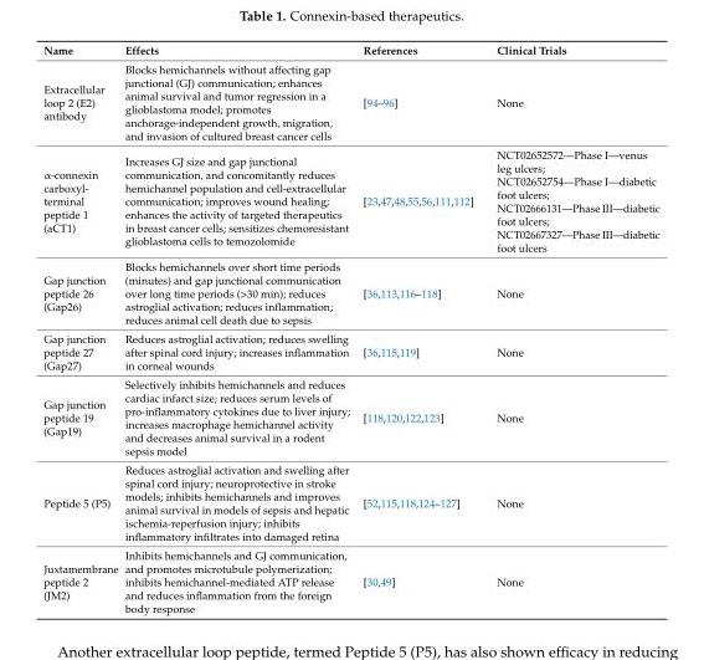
<table><thead><tr><td>Name</td><td>Effects</td><td>References</td><td>Clinical Trials</td></tr></thead><tbody><tr><td>Extracellular loop 2 (E2) antibody</td><td>Blocks hemichannels without affecting gap junctional (GJ) communication; enhances animal survival and tumor regression in a glioblastoma model; promotes anchorage-independent growth, migration, and invasion of cultured breast cancer cells</td><td>[94–96]</td><td>None</td></tr><tr><td>α-connexin carboxyl- terminal peptide 1 (aCT1)</td><td>Increases GJ size and gap junctional communication, and concomitantly reduces hemichannel population and cell-extracellular communication; improves wound healing; enhances the activity of targeted therapeutics in breast cancer cells; sensitizes chemoresistant glioblastoma cells to temozolomide</td><td>[23,47,48,55,56,111,112]</td><td>NCT02652572—Phase I—venus leg ulcers; NCT02652754—Phase I—diabetic foot ulcers; NCT02666131—Phase III—diabetic foot ulcers; NCT02667327—Phase III—diabetic foot ulcers</td></tr><tr><td>Gap junction peptide 26 (Gap26)</td><td>Blocks hemichannels over short time periods (minutes) and gap junctional communication over long time periods (&gt;30 min); reduces astroglial activation; reduces inflammation; reduces animal cell death due to sepsis</td><td>[36,113,116–118]</td><td>None</td></tr><tr><td>Gap junction peptide 27 (Gap27)</td><td>Reduces astroglial activation; reduces swelling after spinal cord injury; increases inflammation in corneal wounds</td><td>[36,115,119]</td><td>None</td></tr><tr><td>Gap junction peptide 19 (Gap19)</td><td>Selectively inhibits hemichannels and reduces cardiac infarct size; reduces serum levels of pro-inflammatory cytokines due to liver injury; increases macrophage hemichannel activity and decreases animal survival in a rodent sepsis model</td><td>[118,120,122,123]</td><td>None</td></tr><tr><td>Peptide 5 (P5)</td><td>Reduces astroglial activation and swelling after spinal cord injury; neuroprotective in stroke models; inhibits hemichannels and improves animal survival in models of sepsis and hepatic ischemia-reperfusion injury; inhibits inflammatory infiltrates into damaged retina</td><td>[52,115,118,124–127]</td><td>None</td></tr><tr><td>Juxtamembrane peptide 2 (JM2)</td><td>Inhibits hemichannels and GJ communication, and promotes microtubule polymerization; inhibits hemichannel-mediated ATP release and reduces inflammation from the foreign body response</td><td>[30,49]</td><td>None</td></tr></tbody></table>